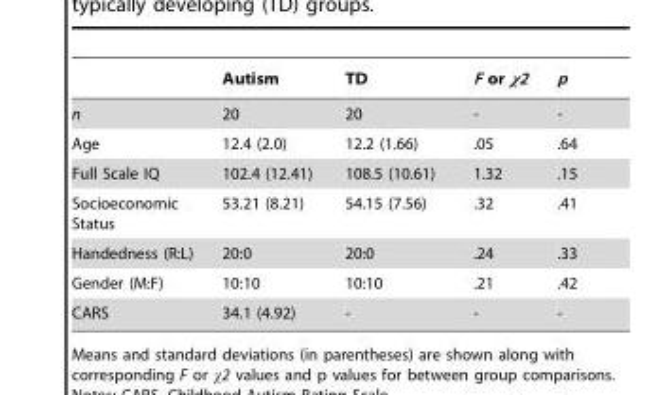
<table><thead><tr><td></td><td>Autism</td><td>TD</td><td>F or χ2</td><td>p</td></tr></thead><tbody><tr><td>n</td><td>20</td><td>20</td><td>-</td><td>-</td></tr><tr><td>Age</td><td>12.4 (2.0)</td><td>12.2 (1.66)</td><td>.05</td><td>.64</td></tr><tr><td>Full Scale IQ</td><td>102.4 (12.41)</td><td>108.5 (10.61)</td><td>1.32</td><td>.15</td></tr><tr><td>Socioeconomic Status</td><td>53.21 (8.21)</td><td>54.15 (7.56)</td><td>.32</td><td>.41</td></tr><tr><td>Handedness (R:L)</td><td>20:0</td><td>20:0</td><td>.24</td><td>.33</td></tr><tr><td>Gender (M:F)</td><td>10:10</td><td>10:10</td><td>.21</td><td>.42</td></tr><tr><td>CARS</td><td>34.1 (4.92)</td><td>-</td><td>-</td><td>-</td></tr></tbody></table>